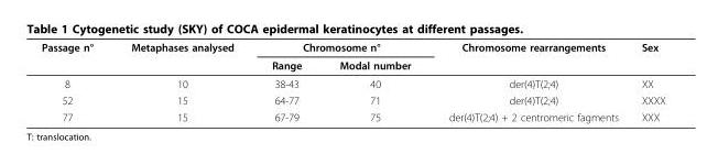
<table><thead><tr><td rowspan="2">Passage n°</td><td rowspan="2">Metaphases analysed</td><td colspan="2">Chromosome n°</td><td rowspan="2">Chromosome rearrangements</td><td rowspan="2">Sex</td></tr><tr><td>Range</td><td>Modal number</td></tr></thead><tbody><tr><td>8</td><td>10</td><td>38-43</td><td>40</td><td>der(4)T(2;4)</td><td>XX</td></tr><tr><td>52</td><td>15</td><td>64-77</td><td>71</td><td>der(4)T(2;4)</td><td>XXXX</td></tr><tr><td>77</td><td>15</td><td>67-79</td><td>75</td><td>der(4)T(2;4) + 2 centromeric fagments</td><td>XXX</td></tr></tbody></table>